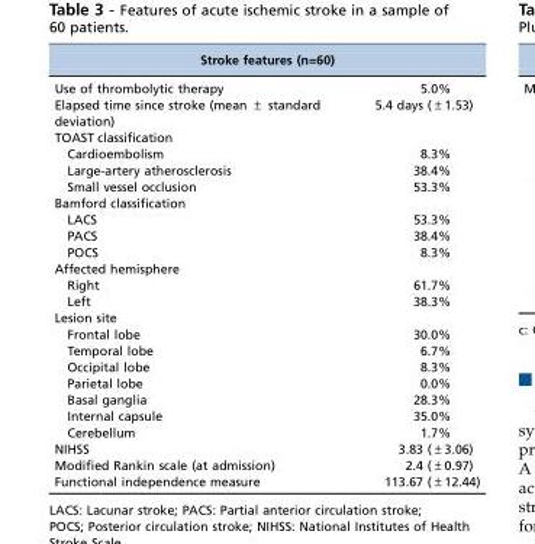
<table><thead><tr><td colspan="2">Stroke features (n=60)</td></tr><tr><td>Use of thrombolytic therapy</td><td>5.0%</td></tr></thead><tbody><tr><td>Elapsed time since stroke (mean ± standard deviation)</td><td>5.4 days (±1.53)</td></tr><tr><td colspan="2">TOAST classification</td></tr><tr><td>Cardioembolism</td><td>8.3%</td></tr><tr><td>Large-artery atherosclerosis</td><td>38.4%</td></tr><tr><td>Small vessel occlusion</td><td>53.3%</td></tr><tr><td colspan="2">Bamford classification</td></tr><tr><td>LACS</td><td>53.3%</td></tr><tr><td>PACS</td><td>38.4%</td></tr><tr><td>POCS</td><td>8.3%</td></tr><tr><td colspan="2">Affected hemisphere</td></tr><tr><td>Right</td><td>61.7%</td></tr><tr><td>Left</td><td>38.3%</td></tr><tr><td colspan="2">Lesion site</td></tr><tr><td>Frontal lobe</td><td>30.0%</td></tr><tr><td>Temporal lobe</td><td>6.7%</td></tr><tr><td>Occipital lobe</td><td>8.3%</td></tr><tr><td>Parietal lobe</td><td>0.0%</td></tr><tr><td>Basal ganglia</td><td>28.3%</td></tr><tr><td>Internal capsule</td><td>35.0%</td></tr><tr><td>Cerebellum</td><td>1.7%</td></tr><tr><td>NIHSS</td><td>3.83 (±3.06)</td></tr><tr><td>Modified Rankin scale (at admission)</td><td>2.4 (±0.97)</td></tr><tr><td>Functional independence measure</td><td>113.67 (±12.44)</td></tr></tbody></table>